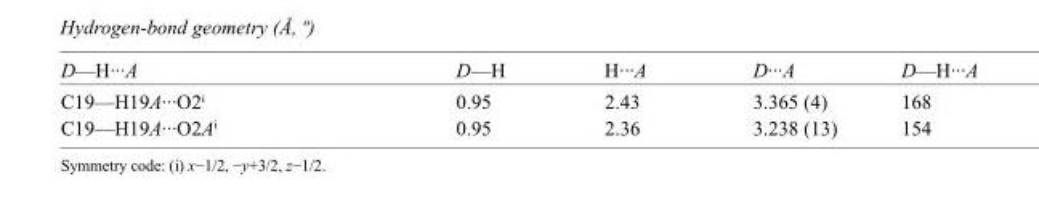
<table><tbody><tr><td>D—H···A</td><td>D—H</td><td>H···A</td><td>D···A</td><td>D—H···A</td></tr><tr><td>C19—H19A···O2<sup>i</sup></td><td>0.95</td><td>2.43</td><td>3.365 (4)</td><td>168</td></tr><tr><td>C19—H19A···O2A<sup>i</sup></td><td>0.95</td><td>2.36</td><td>3.238 (13)</td><td>154</td></tr></tbody></table>